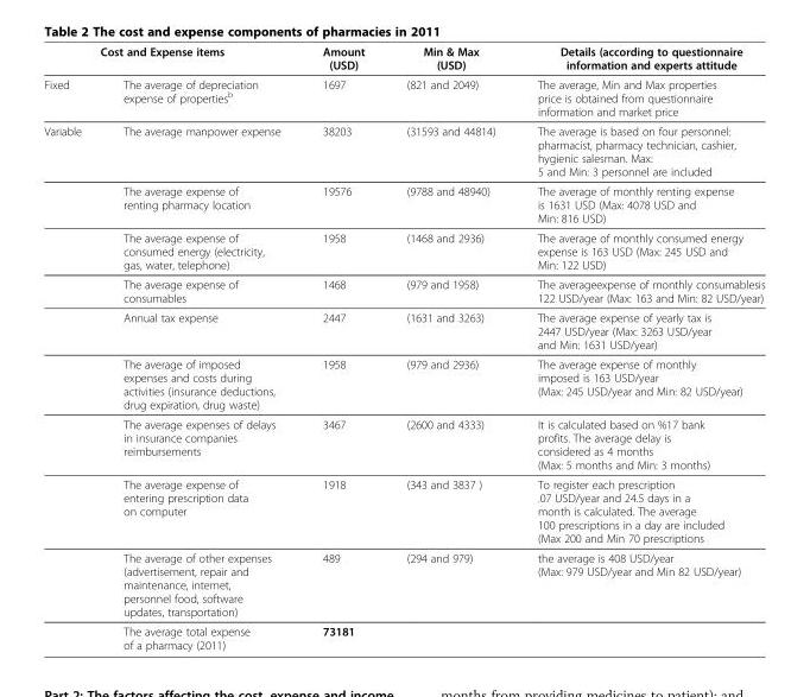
<table><thead><tr><td colspan="2">Cost and Expense items</td><td rowspan="2">Amount (USD) 1697</td><td rowspan="2">Min &amp; Max (USD) (821 and 2049)</td><td rowspan="2">Details (according to questionnaire information and experts attitude The average, Min and Max properties price is obtained from questionnaire information and market price</td></tr><tr><td>Fixed</td><td>The average of depreciation expense of properties<sup>b</sup></td></tr></thead><tbody><tr><td rowspan="10">Variable</td><td>The average manpower expense</td><td>38203</td><td>(31593 and 44814)</td><td>The average is based on four personnel: pharmacist, pharmacy technician, cashier, hygienic salesman. Max: 5 and Min: 3 personnel are included</td></tr><tr><td>The average expense of renting pharmacy location</td><td>19576</td><td>(9788 and 48940)</td><td>The average of monthly renting expense is 1631 USD (Max: 4078 USD and Min: 816 USD)</td></tr><tr><td>The average expense of consumed energy (electricity, gas, water, telephone)</td><td>1958</td><td>(1468 and 2936)</td><td>The average of monthly consumed energy expense is 163 USD (Max: 245 USD and Min: 122 USD)</td></tr><tr><td>The average expense of consumables</td><td>1468</td><td>(979 and 1958)</td><td>The averageexpense of monthly consumablesis 122 USD/year (Max: 163 and Min: 82 USD/year)</td></tr><tr><td>Annual tax expense</td><td>2447</td><td>(1631 and 3263)</td><td>The average expense of yearly tax is 2447 USD/year (Max: 3263 USD/year and Min: 1631 USD/year)</td></tr><tr><td>The average of imposed expenses and costs during activities (insurance deductions, drug expiration, drug waste)</td><td>1958</td><td>(979 and 2936)</td><td>The average expense of monthly imposed is 163 USD/year (Max: 245 USD/year and Min: 82 USD/year)</td></tr><tr><td>The average expenses of delays in insurance companies reimbursements</td><td>3467</td><td>(2600 and 4333)</td><td>It is calculated based on %17 bank profits. The average delay is considered as 4 months (Max: 5 months and Min: 3 months)</td></tr><tr><td>The average expense of entering prescription data on computer</td><td>1918</td><td>(343 and 3837 )</td><td>To register each prescription .07 USD/year and 24.5 days in a month is calculated. The average 100 prescriptions in a day are included (Max 200 and Min 70 prescriptions</td></tr><tr><td>The average of other expenses (advertisement, repair and maintenance, internet, personnel food, software updates, transportation)</td><td>489</td><td>(294 and 979)</td><td>the average is 408 USD/year (Max: 979 USD/year and Min 82 USD/year)</td></tr><tr><td>The average total expense of a pharmacy (2011)</td><td>73181</td><td></td><td></td></tr></tbody></table>